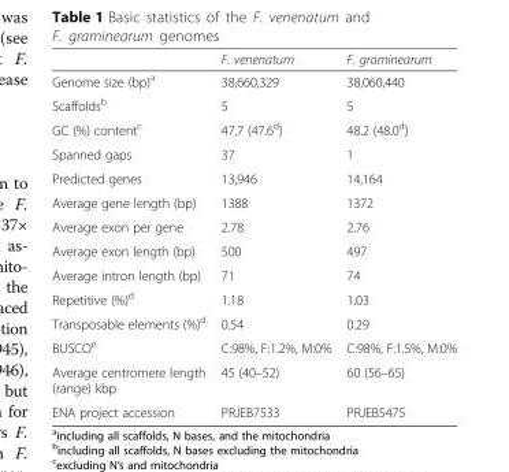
<table><thead><tr><td></td><td>F. venenatum</td><td>F. graminearum</td></tr></thead><tbody><tr><td>Genome size (bp)<sup>a</sup></td><td>38,660,329</td><td>38,060,440</td></tr><tr><td>Scaffolds<sup>b</sup></td><td>5</td><td>5</td></tr><tr><td>GC (%) content<sup>c</sup></td><td>47.7 (47.6<sup>d</sup>)</td><td>48.2 (48.0<sup>d</sup>)</td></tr><tr><td>Spanned gaps</td><td>37</td><td>1</td></tr><tr><td>Predicted genes</td><td>13,946</td><td>14,164</td></tr><tr><td>Average gene length (bp)</td><td>1388</td><td>1372</td></tr><tr><td>Average exon per gene</td><td>2.78</td><td>2.76</td></tr><tr><td>Average exon length (bp)</td><td>500</td><td>497</td></tr><tr><td>Average intron length (bp)</td><td>71</td><td>74</td></tr><tr><td>Repetitive (%)<sup>d</sup></td><td>1.18</td><td>1.03</td></tr><tr><td>Transposable elements (%)<sup>d</sup></td><td>0.54</td><td>0.29</td></tr><tr><td>BUSCO<sup>e</sup></td><td>C:98%, F:1.2%, M:0%</td><td>C:98%, F:1.5%, M:0%</td></tr><tr><td>Average centromere length (range) kbp</td><td>45 (40–52)</td><td>60 (56–65)</td></tr><tr><td>ENA project accession</td><td>PRJEB7533</td><td>PRJEB5475</td></tr></tbody></table>